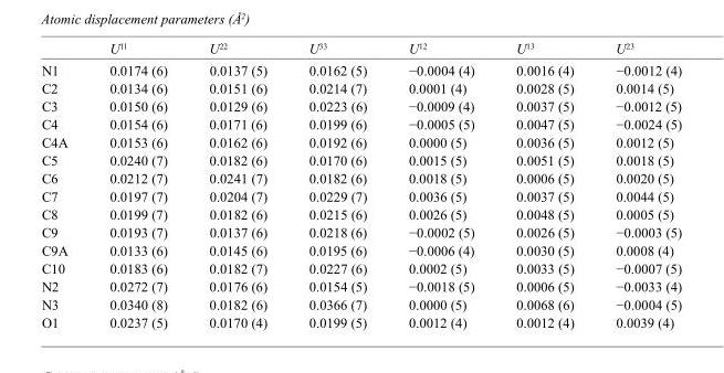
<table><thead><tr><td></td><td>U<sup>11</sup></td><td>U<sup>22</sup></td><td>U<sup>33</sup></td><td>U<sup>12</sup></td><td>U<sup>13</sup></td><td>U<sup>23</sup></td></tr></thead><tbody><tr><td>N1</td><td>0.0174 (6)</td><td>0.0137 (5)</td><td>0.0162 (5)</td><td>−0.0004 (4)</td><td>0.0016 (4)</td><td>−0.0012 (4)</td></tr><tr><td>C2</td><td>0.0134 (6)</td><td>0.0151 (6)</td><td>0.0214 (7)</td><td>0.0001 (4)</td><td>0.0028 (5)</td><td>0.0014 (5)</td></tr><tr><td>C3</td><td>0.0150 (6)</td><td>0.0129 (6)</td><td>0.0223 (6)</td><td>−0.0009 (4)</td><td>0.0037 (5)</td><td>−0.0012 (5)</td></tr><tr><td>C4</td><td>0.0154 (6)</td><td>0.0171 (6)</td><td>0.0199 (6)</td><td>−0.0005 (5)</td><td>0.0047 (5)</td><td>−0.0024 (5)</td></tr><tr><td>C4A</td><td>0.0153 (6)</td><td>0.0162 (6)</td><td>0.0192 (6)</td><td>0.0000 (5)</td><td>0.0036 (5)</td><td>0.0012 (5)</td></tr><tr><td>C5</td><td>0.0240 (7)</td><td>0.0182 (6)</td><td>0.0170 (6)</td><td>0.0015 (5)</td><td>0.0051 (5)</td><td>0.0018 (5)</td></tr><tr><td>C6</td><td>0.0212 (7)</td><td>0.0241 (7)</td><td>0.0182 (6)</td><td>0.0018 (5)</td><td>0.0006 (5)</td><td>0.0020 (5)</td></tr><tr><td>C7</td><td>0.0197 (7)</td><td>0.0204 (7)</td><td>0.0229 (7)</td><td>0.0036 (5)</td><td>0.0037 (5)</td><td>0.0044 (5)</td></tr><tr><td>C8</td><td>0.0199 (7)</td><td>0.0182 (6)</td><td>0.0215 (6)</td><td>0.0026 (5)</td><td>0.0048 (5)</td><td>0.0005 (5)</td></tr><tr><td>C9</td><td>0.0193 (7)</td><td>0.0137 (6)</td><td>0.0218 (6)</td><td>−0.0002 (5)</td><td>0.0026 (5)</td><td>−0.0003 (5)</td></tr><tr><td>C9A</td><td>0.0133 (6)</td><td>0.0145 (6)</td><td>0.0195 (6)</td><td>−0.0006 (4)</td><td>0.0030 (5)</td><td>0.0008 (4)</td></tr><tr><td>C10</td><td>0.0183 (6)</td><td>0.0182 (7)</td><td>0.0227 (6)</td><td>0.0002 (5)</td><td>0.0033 (5)</td><td>−0.0007 (5)</td></tr><tr><td>N2</td><td>0.0272 (7)</td><td>0.0176 (6)</td><td>0.0154 (5)</td><td>−0.0018 (5)</td><td>0.0006 (5)</td><td>−0.0033 (4)</td></tr><tr><td>N3</td><td>0.0340 (8)</td><td>0.0182 (6)</td><td>0.0366 (7)</td><td>0.0000 (5)</td><td>0.0068 (6)</td><td>−0.0004 (5)</td></tr><tr><td>O1</td><td>0.0237 (5)</td><td>0.0170 (4)</td><td>0.0199 (5)</td><td>0.0012 (4)</td><td>0.0012 (4)</td><td>0.0039 (4)</td></tr></tbody></table>